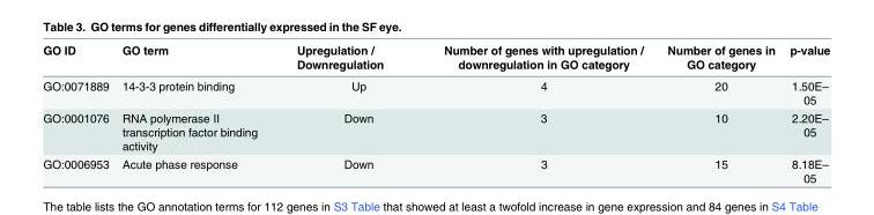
<table><thead><tr><td>GO ID</td><td>GO term</td><td>Upregulation / Downregulation</td><td>Number of genes with upregulation / downregulation in GO category</td><td>Number of genes in GO category</td><td>p-value</td></tr></thead><tbody><tr><td>GO:0071889</td><td>14-3-3 protein binding</td><td>Up</td><td>4</td><td>20</td><td>1.50E– 05</td></tr><tr><td>GO:0001076</td><td>RNA polymerase II transcription factor binding activity</td><td>Down</td><td>3</td><td>10</td><td>2.20E– 05</td></tr><tr><td>GO:0006953</td><td>Acute phase response</td><td>Down</td><td>3</td><td>15</td><td>8.18E–</td></tr></tbody></table>